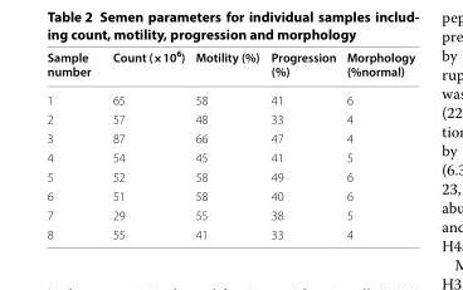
<table><thead><tr><td>Sample number</td><td>Count (×10<sup>6</sup>)</td><td>Motility (%)</td><td>Progression (%)</td><td>Morphology (%normal)</td></tr></thead><tbody><tr><td>1</td><td>65</td><td>58</td><td>41</td><td>6</td></tr><tr><td>2</td><td>57</td><td>48</td><td>33</td><td>4</td></tr><tr><td>3</td><td>87</td><td>66</td><td>47</td><td>4</td></tr><tr><td>4</td><td>54</td><td>45</td><td>41</td><td>5</td></tr><tr><td>5</td><td>52</td><td>58</td><td>49</td><td>6</td></tr><tr><td>6</td><td>51</td><td>58</td><td>40</td><td>6</td></tr><tr><td>7</td><td>29</td><td>55</td><td>38</td><td>5</td></tr><tr><td>8</td><td>55</td><td>41</td><td>33</td><td>4</td></tr></tbody></table>